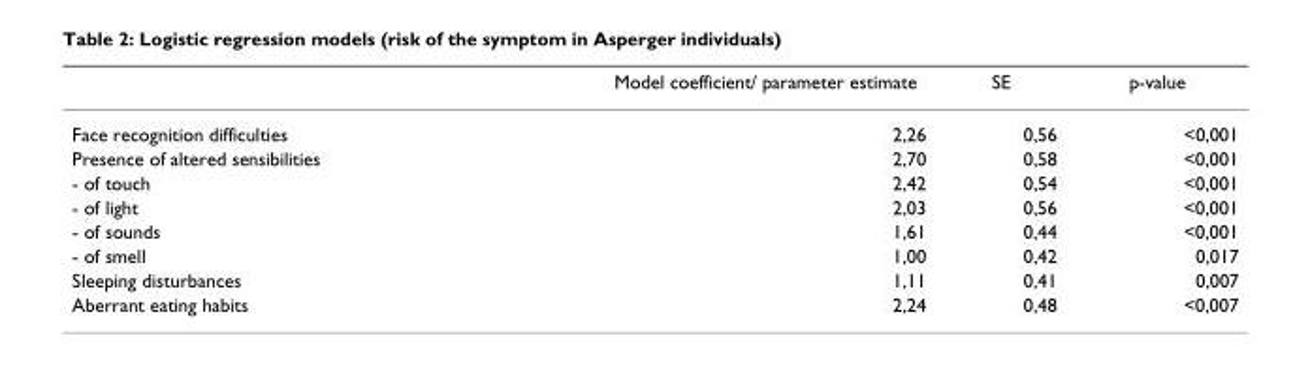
<table><thead><tr><td></td><td>Model coefficient/ parameter estimate</td><td>SE</td><td>p-value</td></tr></thead><tbody><tr><td>Face recognition difficulties</td><td>2,26</td><td>0,56</td><td>&lt;0,001</td></tr><tr><td>Presence of altered sensibilities</td><td>2,70</td><td>0,58</td><td>&lt;0,001</td></tr><tr><td>- of touch</td><td>2,42</td><td>0,54</td><td>&lt;0,001</td></tr><tr><td>- of light</td><td>2,03</td><td>0,56</td><td>&lt;0,001</td></tr><tr><td>- of sounds</td><td>1,61</td><td>0,44</td><td>&lt;0,001</td></tr><tr><td>- of smell</td><td>1,00</td><td>0,42</td><td>0,017</td></tr><tr><td>Sleeping disturbances</td><td>1,11</td><td>0,41</td><td>0,007</td></tr><tr><td>Aberrant eating habits</td><td>2,24</td><td>0,48</td><td>&lt;0,007</td></tr></tbody></table>